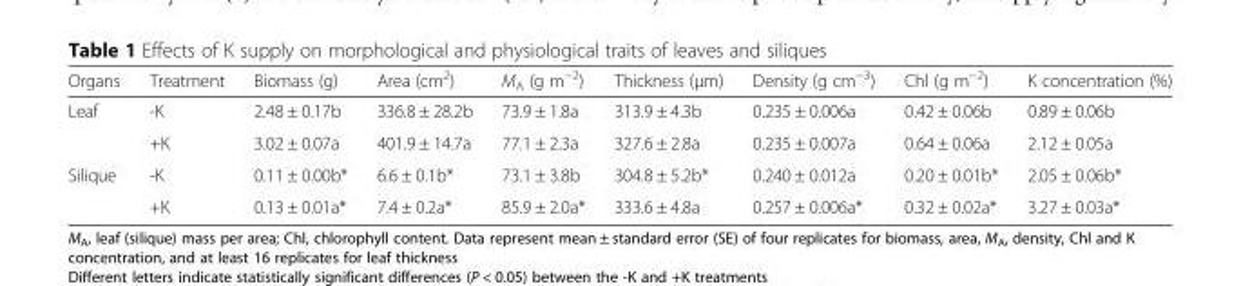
<table><thead><tr><td>Organs</td><td>Treatment</td><td>Biomass (g)</td><td>Area (cm<sup>2</sup>)</td><td>M<sub>A</sub> (g m<sup>−2</sup>)</td><td>Thickness (μm)</td><td>Density (g cm<sup>−3</sup>)</td><td>Chl (g m<sup>−2</sup>)</td><td>K concentration (%)</td></tr></thead><tbody><tr><td rowspan="2">Leaf</td><td>-K</td><td>2.48 ± 0.17b</td><td>336.8 ± 28.2b</td><td>73.9 ± 1.8a</td><td>313.9 ± 4.3b</td><td>0.235 ± 0.006a</td><td>0.42 ± 0.06b</td><td>0.89 ± 0.06b</td></tr><tr><td>+K</td><td>3.02 ± 0.07a</td><td>401.9 ± 14.7a</td><td>77.1 ± 2.3a</td><td>327.6 ± 2.8a</td><td>0.235 ± 0.007a</td><td>0.64 ± 0.06a</td><td>2.12 ± 0.05a</td></tr><tr><td rowspan="2">Silique</td><td>-K</td><td>0.11 ± 0.00b*</td><td>6.6 ± 0.1b*</td><td>73.1 ± 3.8b</td><td>304.8 ± 5.2b*</td><td>0.240 ± 0.012a</td><td>0.20 ± 0.01b*</td><td>2.05 ± 0.06b*</td></tr><tr><td>+K</td><td>0.13 ± 0.01a*</td><td>7.4 ± 0.2a*</td><td>85.9 ± 2.0a*</td><td>333.6 ± 4.8a</td><td>0.257 ± 0.006a*</td><td>0.32 ± 0.02a*</td><td>3.27 ± 0.03a*</td></tr></tbody></table>